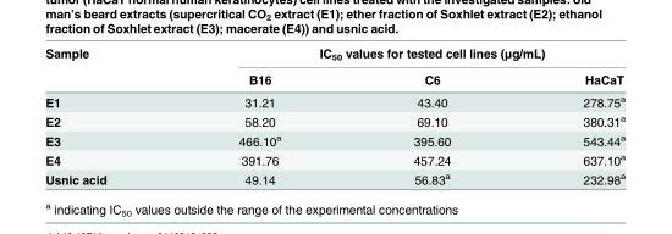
<table><thead><tr><td rowspan="2">Sample</td><td colspan="3">IC<sub>50</sub> values for tested cell lines (μg/mL)</td></tr><tr><td>B16</td><td>C6</td><td>HaCaT</td></tr></thead><tbody><tr><td>E1</td><td>31.21</td><td>43.40</td><td>278.75<sup>a</sup></td></tr><tr><td>E2</td><td>58.20</td><td>69.10</td><td>380.31<sup>a</sup></td></tr><tr><td>E3</td><td>466.10<sup>a</sup></td><td>395.60</td><td>543.44<sup>a</sup></td></tr><tr><td>E4</td><td>391.76</td><td>457.24</td><td>637.10<sup>a</sup></td></tr><tr><td>Usnic acid</td><td>49.14</td><td>56.83<sup>a</sup></td><td>232.98<sup>a</sup></td></tr></tbody></table>